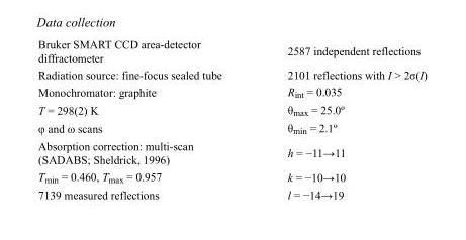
<table><tbody><tr><td>Bruker SMART CCD area-detector diffractometer</td><td>2587 independent reflections</td></tr><tr><td>Radiation source: fine-focus sealed tube</td><td>2101 reflections with I &gt; 2σ(I)</td></tr><tr><td>Monochromator: graphite</td><td>R<sub>int</sub> = 0.035</td></tr><tr><td>T = 298(2) K</td><td>θ<sub>max</sub> = 25.0º</td></tr><tr><td>φ and ω scans</td><td>θ<sub>min</sub> = 2.1º</td></tr><tr><td>Absorption correction: multi-scan (SADABS; Sheldrick, 1996)</td><td>h = −11→11</td></tr><tr><td>T<sub>min</sub> = 0.460, T<sub>max</sub> = 0.957</td><td>k = −10→10</td></tr><tr><td>7139 measured reflections</td><td>l = −14→19</td></tr></tbody></table>